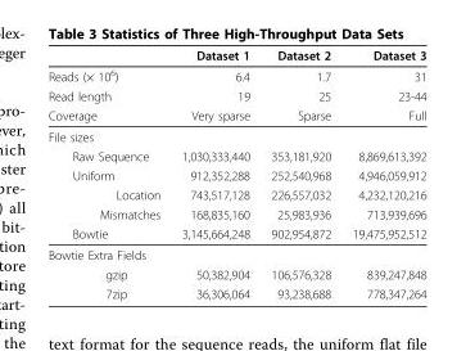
<table><thead><tr><td></td><td>Dataset 1</td><td>Dataset 2</td><td>Dataset 3</td></tr></thead><tbody><tr><td>Reads (× 10<sup>6</sup>)</td><td>6.4</td><td>1.7</td><td>31</td></tr><tr><td>Read length</td><td>19</td><td>25</td><td>23-44</td></tr><tr><td>Coverage</td><td>Very sparse</td><td>Sparse</td><td>Full</td></tr><tr><td colspan="4">File sizes</td></tr><tr><td>Raw Sequence</td><td>1,030,333,440</td><td>353,181,920</td><td>8,869,613,392</td></tr><tr><td>Uniform</td><td>912,352,288</td><td>252,540,968</td><td>4,946,059,912</td></tr><tr><td>Location</td><td>743,517,128</td><td>226,557,032</td><td>4,232,120,216</td></tr><tr><td>Mismatches</td><td>168,835,160</td><td>25,983,936</td><td>713,939,696</td></tr><tr><td>Bowtie</td><td>3,145,664,248</td><td>902,954,872</td><td>19,475,952,512</td></tr><tr><td colspan="4">Bowtie Extra Fields</td></tr><tr><td>gzip</td><td>50,382,904</td><td>106,576,328</td><td>839,247,848</td></tr><tr><td>7zip</td><td>36,306,064</td><td>93,238,688</td><td>778,347,264</td></tr></tbody></table>